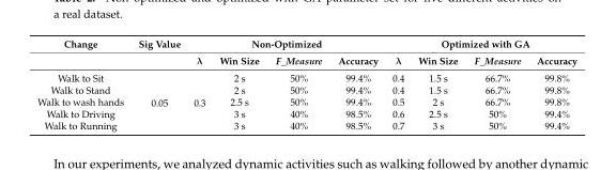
<table><thead><tr><td rowspan="2">Change</td><td rowspan="2">Sig Value</td><td colspan="4">Non-Optimized</td><td colspan="4">Optimized with GA</td></tr><tr><td>λ</td><td>Win Size</td><td>F_Measure</td><td>Accuracy</td><td>λ</td><td>Win Size</td><td>F_Measure</td><td>Accuracy</td></tr></thead><tbody><tr><td>Walk to Sit</td><td rowspan="5">0.05</td><td rowspan="5">0.3</td><td>2 s</td><td>50%</td><td>99.4%</td><td>0.4</td><td>1.5 s</td><td>66.7%</td><td>99.8%</td></tr><tr><td>Walk to Stand</td><td>2 s</td><td>50%</td><td>99.4%</td><td>0.4</td><td>1.5 s</td><td>66.7%</td><td>99.8%</td></tr><tr><td>Walk to wash hands</td><td>2.5 s</td><td>50%</td><td>99.4%</td><td>0.5</td><td>2 s</td><td>66.7%</td><td>99.8%</td></tr><tr><td>Walk to Driving</td><td>3 s</td><td>40%</td><td>98.5%</td><td>0.6</td><td>2.5 s</td><td>50%</td><td>99.4%</td></tr><tr><td>Walk to Running</td><td>3 s</td><td>40%</td><td>98.5%</td><td>0.7</td><td>3 s</td><td>50%</td><td>99.4%</td></tr></tbody></table>